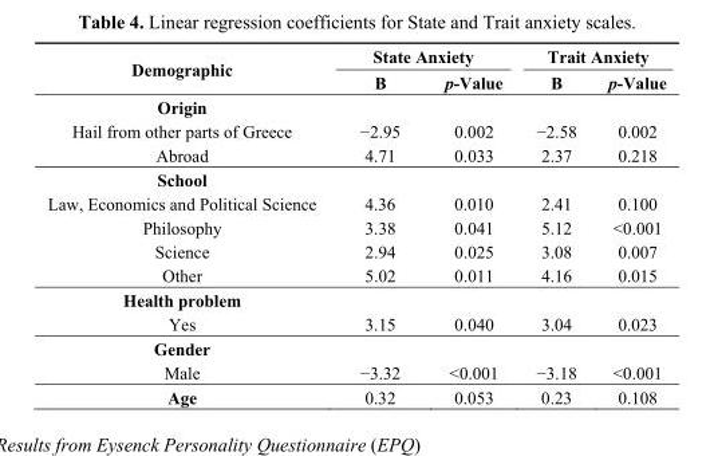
<table><thead><tr><td rowspan="2">Demographic</td><td colspan="2">State Anxiety</td><td colspan="2">Trait Anxiety</td></tr><tr><td>B</td><td>p-Value</td><td>B</td><td>p-Value</td></tr></thead><tbody><tr><td colspan="5">Origin</td></tr><tr><td>Hail from other parts of Greece</td><td>−2.95</td><td>0.002</td><td>−2.58</td><td>0.002</td></tr><tr><td>Abroad</td><td>4.71</td><td>0.033</td><td>2.37</td><td>0.218</td></tr><tr><td colspan="5">School</td></tr><tr><td>Law, Economics and Political Science</td><td>4.36</td><td>0.010</td><td>2.41</td><td>0.100</td></tr><tr><td>Philosophy</td><td>3.38</td><td>0.041</td><td>5.12</td><td>&lt;0.001</td></tr><tr><td>Science</td><td>2.94</td><td>0.025</td><td>3.08</td><td>0.007</td></tr><tr><td>Other</td><td>5.02</td><td>0.011</td><td>4.16</td><td>0.015</td></tr><tr><td colspan="5">Health problem</td></tr><tr><td>Yes</td><td>3.15</td><td>0.040</td><td>3.04</td><td>0.023</td></tr><tr><td colspan="5">Gender</td></tr><tr><td>Male</td><td>−3.32</td><td>&lt;0.001</td><td>−3.18</td><td>&lt;0.001</td></tr><tr><td>Age</td><td>0.32</td><td>0.053</td><td>0.23</td><td>0.108</td></tr></tbody></table>